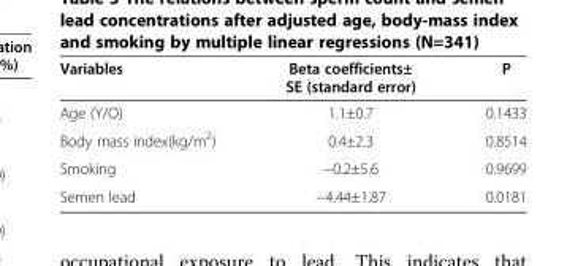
<table><thead><tr><td>Variables</td><td>Beta coefficients± SE (standard error)</td><td>P</td></tr></thead><tbody><tr><td>Age (Y/O)</td><td>1.1±0.7</td><td>0.1433</td></tr><tr><td>Body mass index(kg/m<sup>2</sup>)</td><td>0.4±2.3</td><td>0.8514</td></tr><tr><td>Smoking</td><td>−0.2±5.6</td><td>0.9699</td></tr><tr><td>Semen lead</td><td>−4.44±1.87</td><td>0.0181</td></tr></tbody></table>